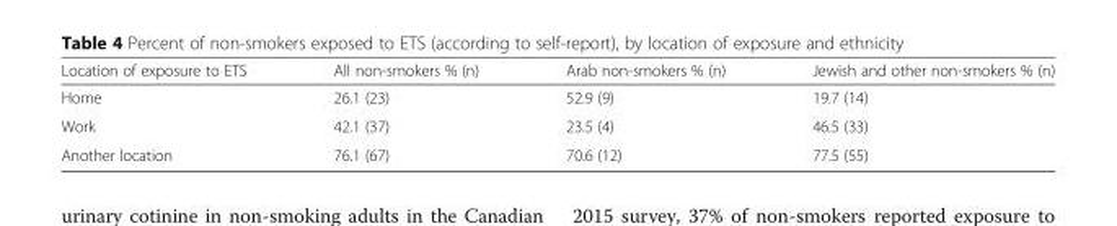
<table><thead><tr><td>Location of exposure to ETS</td><td>All non-smokers % (n)</td><td>Arab non-smokers % (n)</td><td>Jewish and other non-smokers % (n)</td></tr></thead><tbody><tr><td>Home</td><td>26.1 (23)</td><td>52.9 (9)</td><td>19.7 (14)</td></tr><tr><td>Work</td><td>42.1 (37)</td><td>23.5 (4)</td><td>46.5 (33)</td></tr><tr><td>Another location</td><td>76.1 (67)</td><td>70.6 (12)</td><td>77.5 (55)</td></tr></tbody></table>